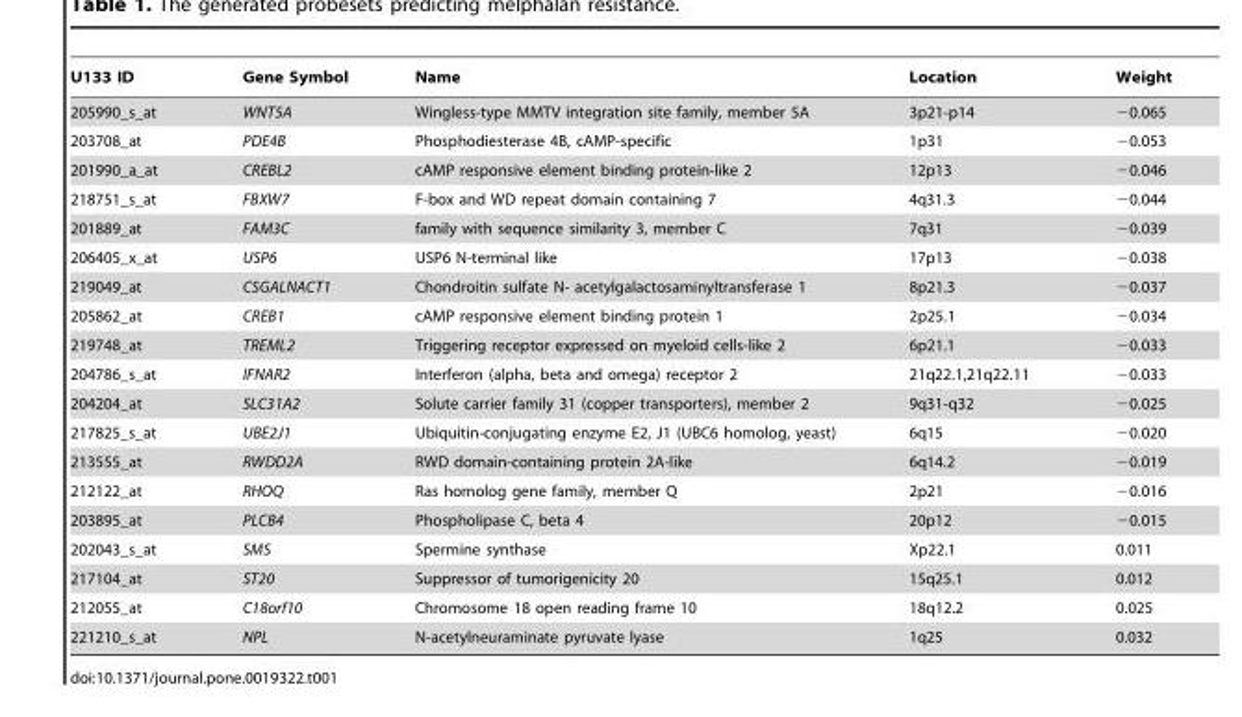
<table><thead><tr><td>U133 ID</td><td>Gene Symbol</td><td>Name</td><td>Location</td><td>Weight</td></tr></thead><tbody><tr><td>205990_s_at</td><td>WNT5A</td><td>Wingless-type MMTV integration site family, member 5A</td><td>3p21-p14</td><td>−0.065</td></tr><tr><td>203708_at</td><td>PDE4B</td><td>Phosphodiesterase 4B, cAMP-specific</td><td>1p31</td><td>−0.053</td></tr><tr><td>201990_a_at</td><td>CREBL2</td><td>cAMP responsive element binding protein-like 2</td><td>12p13</td><td>−0.046</td></tr><tr><td>218751_s_at</td><td>FBXW7</td><td>F-box and WD repeat domain containing 7</td><td>4q31.3</td><td>−0.044</td></tr><tr><td>201889_at</td><td>FAM3C</td><td>family with sequence similarity 3, member C</td><td>7q31</td><td>−0.039</td></tr><tr><td>206405_x_at</td><td>USP6</td><td>USP6 N-terminal like</td><td>17p13</td><td>−0.038</td></tr><tr><td>219049_at</td><td>CSGALNACT1</td><td>Chondroitin sulfate N- acetylgalactosaminyltransferase 1</td><td>8p21.3</td><td>−0.037</td></tr><tr><td>205862_at</td><td>CREB1</td><td>cAMP responsive element binding protein 1</td><td>2p25.1</td><td>−0.034</td></tr><tr><td>219748_at</td><td>TREML2</td><td>Triggering receptor expressed on myeloid cells-like 2</td><td>6p21.1</td><td>−0.033</td></tr><tr><td>204786_s_at</td><td>IFNAR2</td><td>Interferon (alpha, beta and omega) receptor 2</td><td>21q22.1,21q22.11</td><td>−0.033</td></tr><tr><td>204204_at</td><td>SLC31A2</td><td>Solute carrier family 31 (copper transporters), member 2</td><td>9q31-q32</td><td>−0.025</td></tr><tr><td>217825_s_at</td><td>UBE2J1</td><td>Ubiquitin-conjugating enzyme E2, J1 (UBC6 homolog, yeast)</td><td>6q15</td><td>−0.020</td></tr><tr><td>213555_at</td><td>RWDD2A</td><td>RWD domain-containing protein 2A-like</td><td>6q14.2</td><td>−0.019</td></tr><tr><td>212122_at</td><td>RHOQ</td><td>Ras homolog gene family, member Q</td><td>2p21</td><td>−0.016</td></tr><tr><td>203895_at</td><td>PLCB4</td><td>Phospholipase C, beta 4</td><td>20p12</td><td>−0.015</td></tr><tr><td>202043_s_at</td><td>SMS</td><td>Spermine synthase</td><td>Xp22.1</td><td>0.011</td></tr><tr><td>217104_at</td><td>ST20</td><td>Suppressor of tumorigenicity 20</td><td>15q25.1</td><td>0.012</td></tr><tr><td>212055_at</td><td>C18orf10</td><td>Chromosome 18 open reading frame 10</td><td>18q12.2</td><td>0.025</td></tr><tr><td>221210_s_at</td><td>NPL</td><td>N-acetylneuraminate pyruvate lyase</td><td>1q25</td><td>0.032</td></tr></tbody></table>